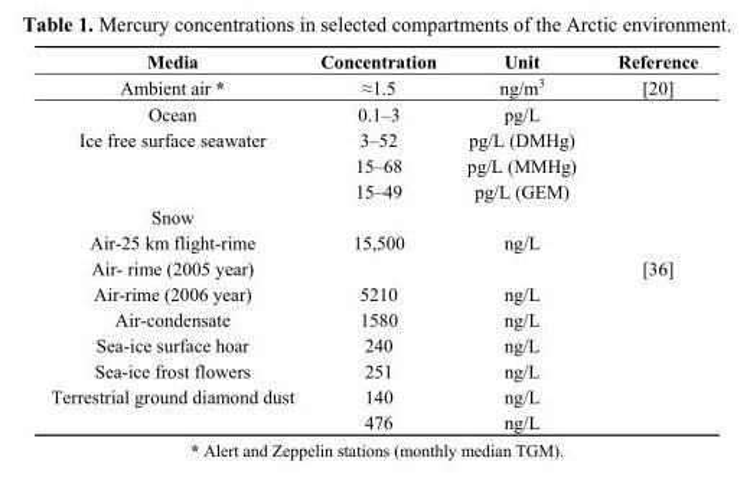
<table><thead><tr><td>Media</td><td>Concentration</td><td>Unit</td><td>Reference</td></tr></thead><tbody><tr><td>Ambient air *</td><td>≈1.5</td><td>ng/m<sup>3</sup></td><td>[20]</td></tr><tr><td>Ocean</td><td>0.1–3</td><td>pg/L</td><td rowspan="13">[36]</td></tr><tr><td rowspan="3">Ice free surface seawater</td><td>3–52</td><td>pg/L (DMHg)</td></tr><tr><td>15–68</td><td>pg/L (MMHg)</td></tr><tr><td>15–49</td><td>pg/L (GEM)</td></tr><tr><td colspan="3">Snow</td></tr><tr><td>Air-25 km flight-rime</td><td>15,500</td><td>ng/L</td></tr><tr><td colspan="3">Air- rime (2005 year)</td></tr><tr><td>Air-rime (2006 year)</td><td>5210</td><td>ng/L</td></tr><tr><td>Air-condensate</td><td>1580</td><td>ng/L</td></tr><tr><td>Sea-ice surface hoar</td><td>240</td><td>ng/L</td></tr><tr><td>Sea-ice frost flowers</td><td>251</td><td>ng/L</td></tr><tr><td rowspan="2">Terrestrial ground diamond dust</td><td>140</td><td>ng/L</td></tr><tr><td>476</td><td>ng/L</td></tr></tbody></table>